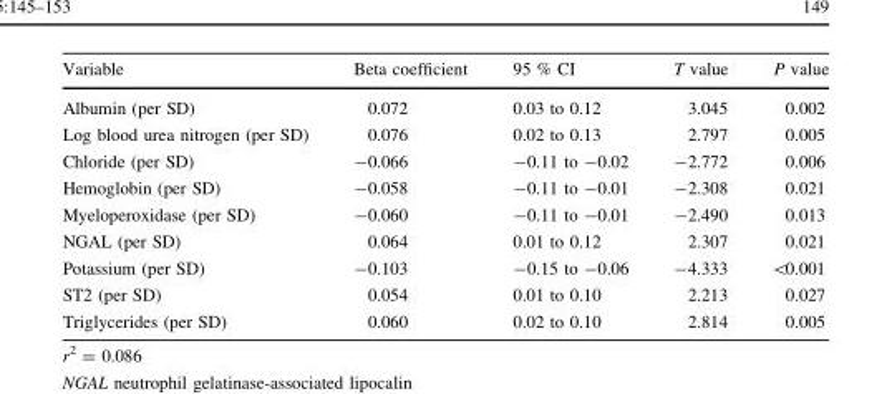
<table><thead><tr><td>Variable</td><td>Beta coefficient</td><td>95 % CI</td><td>T value</td><td>P value</td></tr></thead><tbody><tr><td>Albumin (per SD)</td><td>0.072</td><td>0.03 to 0.12</td><td>3.045</td><td>0.002</td></tr><tr><td>Log blood urea nitrogen (per SD)</td><td>0.076</td><td>0.02 to 0.13</td><td>2.797</td><td>0.005</td></tr><tr><td>Chloride (per SD)</td><td>-0.066</td><td>-0.11 to -0.02</td><td>-2.772</td><td>0.006</td></tr><tr><td>Hemoglobin (per SD)</td><td>-0.058</td><td>-0.11 to -0.01</td><td>-2.308</td><td>0.021</td></tr><tr><td>Myeloperoxidase (per SD)</td><td>-0.060</td><td>-0.11 to -0.01</td><td>-2.490</td><td>0.013</td></tr><tr><td>NGAL (per SD)</td><td>0.064</td><td>0.01 to 0.12</td><td>2.307</td><td>0.021</td></tr><tr><td>Potassium (per SD)</td><td>-0.103</td><td>-0.15 to -0.06</td><td>-4.333</td><td>&lt;0.001</td></tr><tr><td>ST2 (per SD)</td><td>0.054</td><td>0.01 to 0.10</td><td>2.213</td><td>0.027</td></tr><tr><td>Triglycerides (per SD)</td><td>0.060</td><td>0.02 to 0.10</td><td>2.814</td><td>0.005</td></tr></tbody></table>